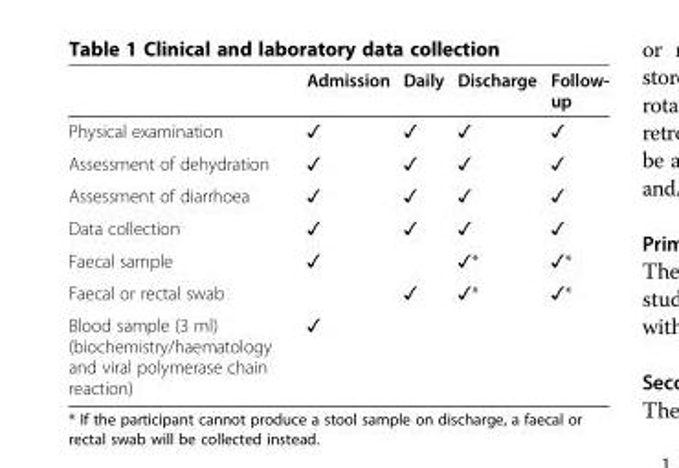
<table><thead><tr><td></td><td>Admission</td><td>Daily</td><td>Discharge</td><td>Follow- up</td></tr></thead><tbody><tr><td>Physical examination</td><td>✓</td><td>✓</td><td>✓</td><td>✓</td></tr><tr><td>Assessment of dehydration</td><td>✓</td><td>✓</td><td>✓</td><td>✓</td></tr><tr><td>Assessment of diarrhoea</td><td>✓</td><td>✓</td><td>✓</td><td>✓</td></tr><tr><td>Data collection</td><td>✓</td><td>✓</td><td>✓</td><td>✓</td></tr><tr><td>Faecal sample</td><td>✓</td><td></td><td>✓*</td><td>✓*</td></tr><tr><td>Faecal or rectal swab</td><td></td><td>✓</td><td>✓*</td><td>✓*</td></tr><tr><td>Blood sample (3 ml) (biochemistry/haematology and viral polymerase chain reaction)</td><td>✓</td><td></td><td></td><td></td></tr></tbody></table>